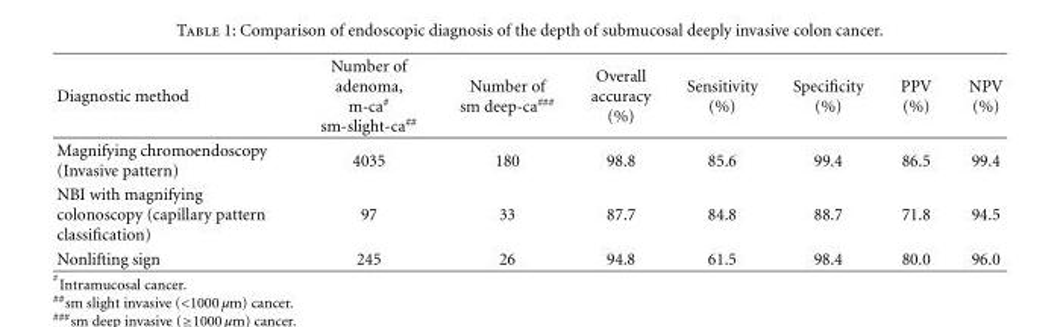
<table><thead><tr><td>Diagnostic method</td><td>Number of adenoma, m-ca<sup>#</sup> sm-slight-ca<sup>##</sup></td><td>Number of sm deep-ca<sup>###</sup></td><td>Overall accuracy (%)</td><td>Sensitivity (%)</td><td>Specificity (%)</td><td>PPV (%)</td><td>NPV (%)</td></tr></thead><tbody><tr><td>Magnifying chromoendoscopy (Invasive pattern)</td><td>4035</td><td>180</td><td>98.8</td><td>85.6</td><td>99.4</td><td>86.5</td><td>99.4</td></tr><tr><td>NBI with magnifying colonoscopy (capillary pattern classification)</td><td>97</td><td>33</td><td>87.7</td><td>84.8</td><td>88.7</td><td>71.8</td><td>94.5</td></tr><tr><td>Nonlifting sign</td><td>245</td><td>26</td><td>94.8</td><td>61.5</td><td>98.4</td><td>80.0</td><td>96.0</td></tr></tbody></table>